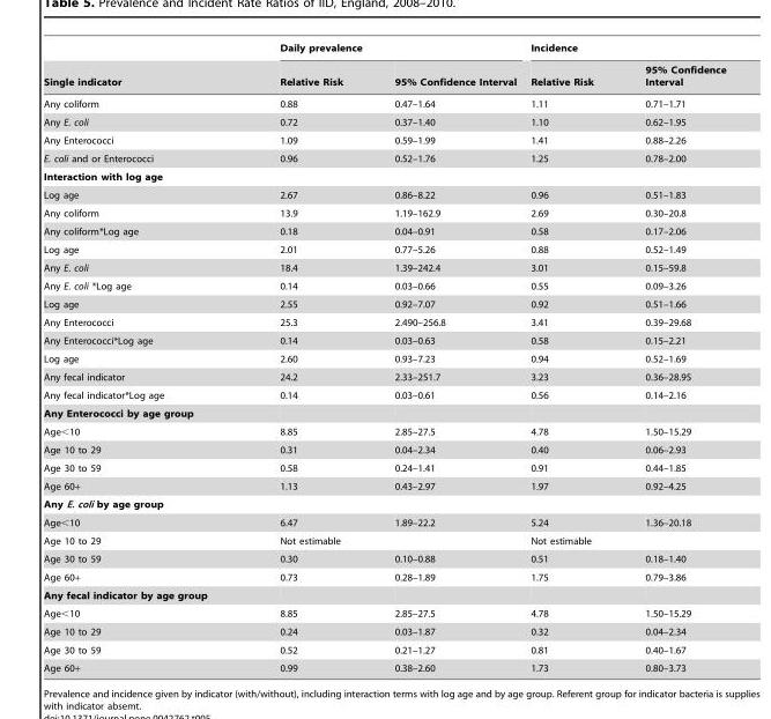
<table><thead><tr><td rowspan="2">Single indicator</td><td colspan="2">Daily prevalence</td><td colspan="2">Incidence</td></tr><tr><td>Relative Risk</td><td>95% Confidence Interval</td><td>Relative Risk</td><td>95% Confidence Interval</td></tr></thead><tbody><tr><td>Any coliform</td><td>0.88</td><td>0.47–1.64</td><td>1.11</td><td>0.71–1.71</td></tr><tr><td>Any E. coli</td><td>0.72</td><td>0.37–1.40</td><td>1.10</td><td>0.62–1.95</td></tr><tr><td>Any Enterococci</td><td>1.09</td><td>0.59–1.99</td><td>1.41</td><td>0.88–2.26</td></tr><tr><td>E. coli and or Enterococci</td><td>0.96</td><td>0.52–1.76</td><td>1.25</td><td>0.78–2.00</td></tr><tr><td colspan="5">Interaction with log age</td></tr><tr><td>Log age</td><td>2.67</td><td>0.86–8.22</td><td>0.96</td><td>0.51–1.83</td></tr><tr><td>Any coliform</td><td>13.9</td><td>1.19–162.9</td><td>2.69</td><td>0.30–20.8</td></tr><tr><td>Any coliform*Log age</td><td>0.18</td><td>0.04–0.91</td><td>0.58</td><td>0.17–2.06</td></tr><tr><td>Log age</td><td>2.01</td><td>0.77–5.26</td><td>0.88</td><td>0.52–1.49</td></tr><tr><td>Any E. coli</td><td>18.4</td><td>1.39–242.4</td><td>3.01</td><td>0.15–59.8</td></tr><tr><td>Any E. coli *Log age</td><td>0.14</td><td>0.03–0.66</td><td>0.55</td><td>0.09–3.26</td></tr><tr><td>Log age</td><td>2.55</td><td>0.92–7.07</td><td>0.92</td><td>0.51–1.66</td></tr><tr><td>Any Enterococci</td><td>25.3</td><td>2.490–256.8</td><td>3.41</td><td>0.39–29.68</td></tr><tr><td>Any Enterococci*Log age</td><td>0.14</td><td>0.03–0.63</td><td>0.58</td><td>0.15–2.21</td></tr><tr><td>Log age</td><td>2.60</td><td>0.93–7.23</td><td>0.94</td><td>0.52–1.69</td></tr><tr><td>Any fecal indicator</td><td>24.2</td><td>2.33–251.7</td><td>3.23</td><td>0.36–28.95</td></tr><tr><td>Any fecal indicator*Log age</td><td>0.14</td><td>0.03–0.61</td><td>0.56</td><td>0.14–2.16</td></tr><tr><td colspan="5">Any Enterococci by age group</td></tr><tr><td>Age&lt;10</td><td>8.85</td><td>2.85–27.5</td><td>4.78</td><td>1.50–15.29</td></tr><tr><td>Age 10 to 29</td><td>0.31</td><td>0.04–2.34</td><td>0.40</td><td>0.06–2.93</td></tr><tr><td>Age 30 to 59</td><td>0.58</td><td>0.24–1.41</td><td>0.91</td><td>0.44–1.85</td></tr><tr><td>Age 60+</td><td>1.13</td><td>0.43–2.97</td><td>1.97</td><td>0.92–4.25</td></tr><tr><td colspan="5">Any E. coli by age group</td></tr><tr><td>Age&lt;10</td><td>6.47</td><td>1.89–22.2</td><td>5.24</td><td>1.36–20.18</td></tr><tr><td>Age 10 to 29</td><td colspan="2">Not estimable</td><td colspan="2">Not estimable</td></tr><tr><td>Age 30 to 59</td><td>0.30</td><td>0.10–0.88</td><td>0.51</td><td>0.18–1.40</td></tr><tr><td>Age 60+</td><td>0.73</td><td>0.28–1.89</td><td>1.75</td><td>0.79–3.86</td></tr><tr><td colspan="5">Any fecal indicator by age group</td></tr><tr><td>Age&lt;10</td><td>8.85</td><td>2.85–27.5</td><td>4.78</td><td>1.50–15.29</td></tr><tr><td>Age 10 to 29</td><td>0.24</td><td>0.03–1.87</td><td>0.32</td><td>0.04–2.34</td></tr><tr><td>Age 30 to 59</td><td>0.52</td><td>0.21–1.27</td><td>0.81</td><td>0.40–1.67</td></tr><tr><td>Age 60+</td><td>0.99</td><td>0.38–2.60</td><td>1.73</td><td>0.80–3.73</td></tr></tbody></table>